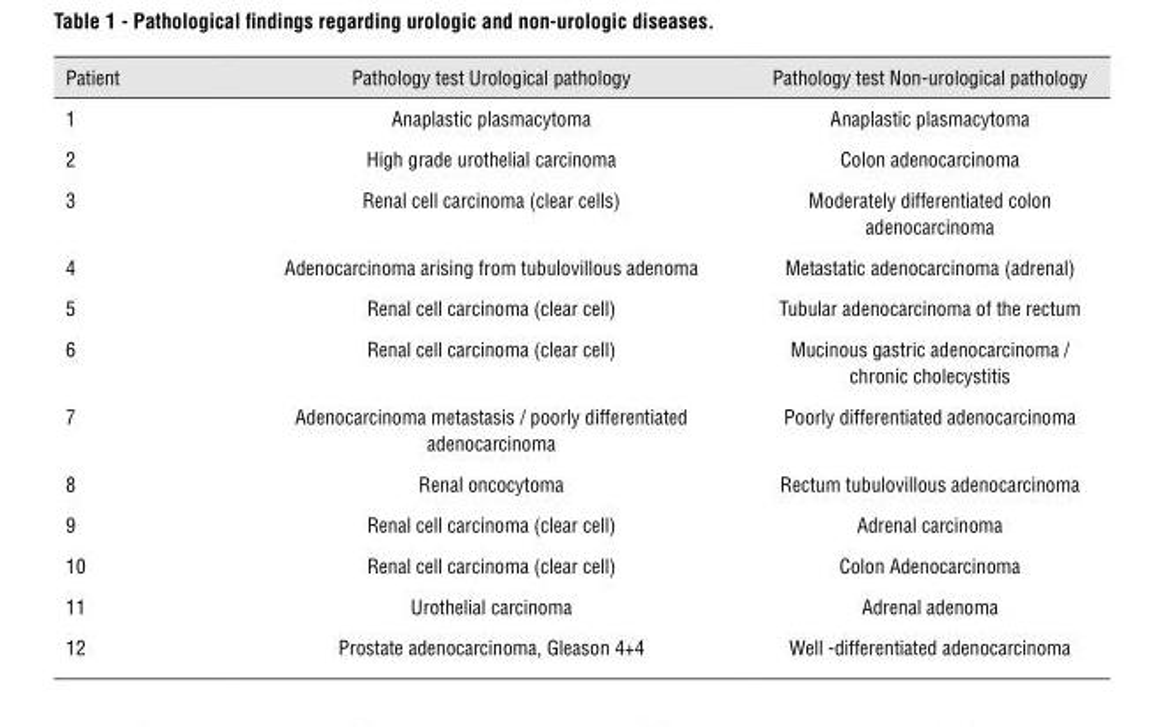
<table><thead><tr><td>Patient</td><td>Pathology test Urological pathology</td><td>Pathology test Non-urological pathology</td></tr></thead><tbody><tr><td>1</td><td>Anaplastic plasmacytoma</td><td>Anaplastic plasmacytoma</td></tr><tr><td>2</td><td>High grade urothelial carcinoma</td><td>Colon adenocarcinoma</td></tr><tr><td>3</td><td>Renal cell carcinoma (clear cells)</td><td>Moderately differentiated colon adenocarcinoma</td></tr><tr><td>4</td><td>Adenocarcinoma arising from tubulovillous adenoma</td><td>Metastatic adenocarcinoma (adrenal)</td></tr><tr><td>5</td><td>Renal cell carcinoma (clear cell)</td><td>Tubular adenocarcinoma of the rectum</td></tr><tr><td>6</td><td>Renal cell carcinoma (clear cell)</td><td>Mucinous gastric adenocarcinoma / chronic cholecystitis</td></tr><tr><td>7</td><td>Adenocarcinoma metastasis / poorly differentiated adenocarcinoma</td><td>Poorly differentiated adenocarcinoma</td></tr><tr><td>8</td><td>Renal oncocytoma</td><td>Rectum tubulovillous adenocarcinoma</td></tr><tr><td>9</td><td>Renal cell carcinoma (clear cell)</td><td>Adrenal carcinoma</td></tr><tr><td>10</td><td>Renal cell carcinoma (clear cell)</td><td>Colon Adenocarcinoma</td></tr><tr><td>11</td><td>Urothelial carcinoma</td><td>Adrenal adenoma</td></tr><tr><td>12</td><td>Prostate adenocarcinoma, Gleason 4+4</td><td>Well -differentiated adenocarcinoma</td></tr></tbody></table>